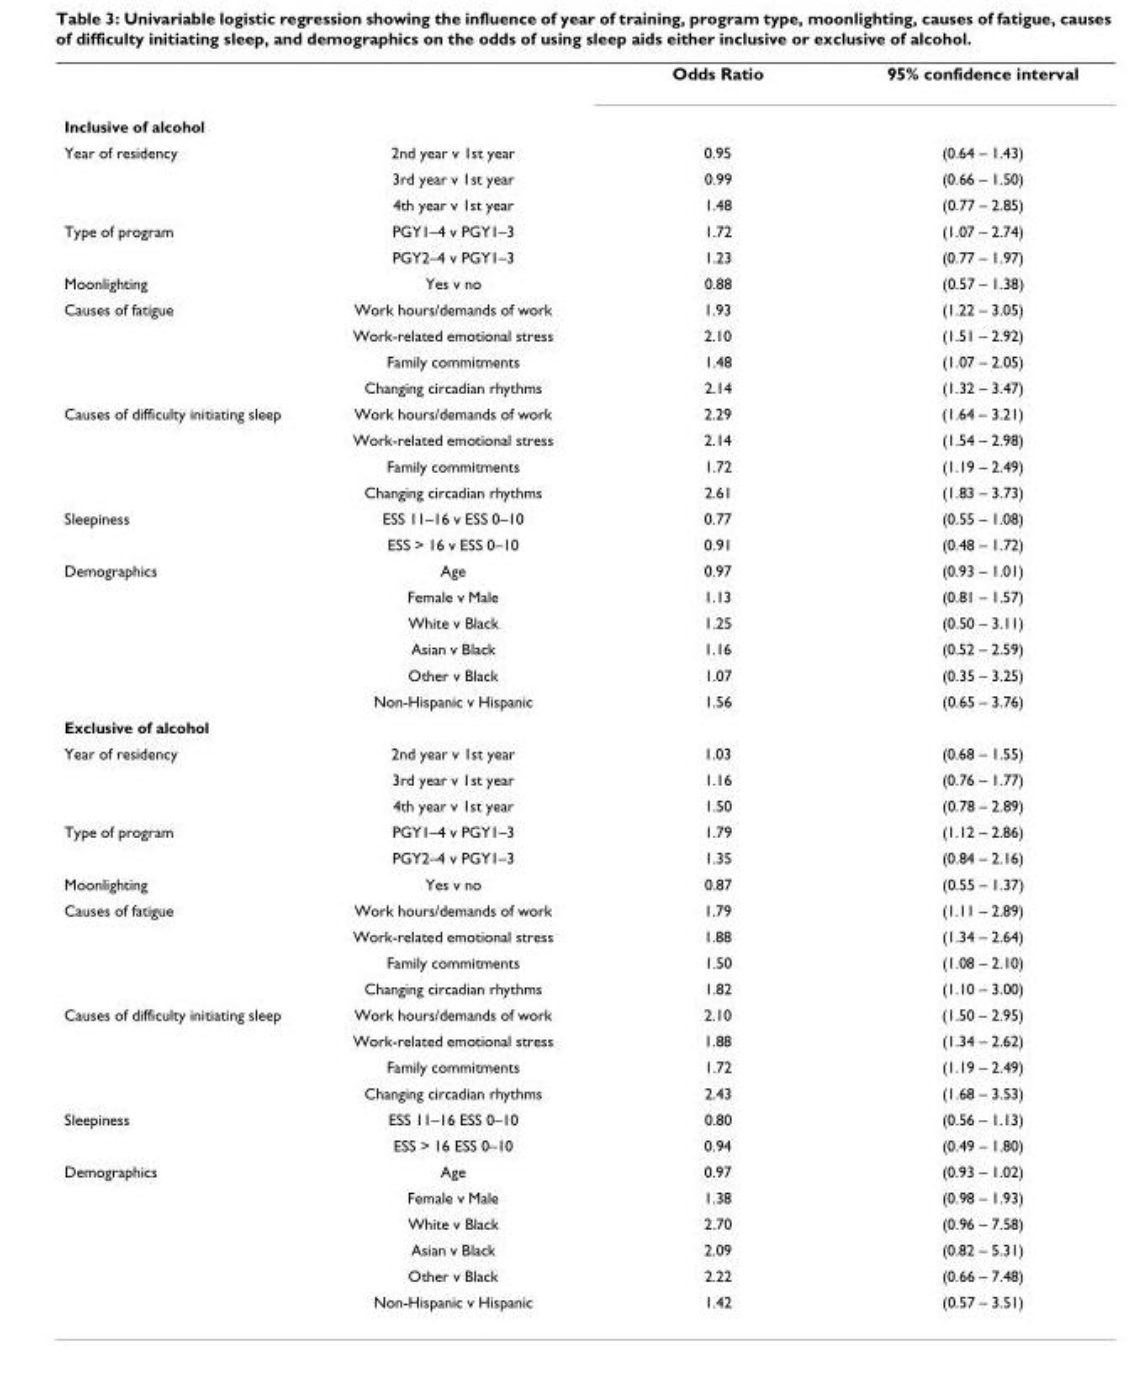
<table><thead><tr><td></td><td></td><td>Odds Ratio</td><td>95% confidence interval</td></tr></thead><tbody><tr><td colspan="4">Inclusive of alcohol</td></tr><tr><td rowspan="3">Year of residency</td><td>2nd year v 1st year</td><td>0.95</td><td>(0.64 – 1.43)</td></tr><tr><td>3rd year v 1st year</td><td>0.99</td><td>(0.66 – 1.50)</td></tr><tr><td>4th year v 1st year</td><td>1.48</td><td>(0.77 – 2.85)</td></tr><tr><td rowspan="2">Type of program</td><td>PGY1–4 v PGY1–3</td><td>1.72</td><td>(1.07 – 2.74)</td></tr><tr><td>PGY2–4 v PGY1–3</td><td>1.23</td><td>(0.77 – 1.97)</td></tr><tr><td>Moonlighting</td><td>Yes v no</td><td>0.88</td><td>(0.57 – 1.38)</td></tr><tr><td rowspan="4">Causes of fatigue</td><td>Work hours/demands of work</td><td>1.93</td><td>(1.22 – 3.05)</td></tr><tr><td>Work-related emotional stress</td><td>2.10</td><td>(1.51 – 2.92)</td></tr><tr><td>Family commitments</td><td>1.48</td><td>(1.07 – 2.05)</td></tr><tr><td>Changing circadian rhythms</td><td>2.14</td><td>(1.32 – 3.47)</td></tr><tr><td rowspan="4">Causes of difficulty initiating sleep</td><td>Work hours/demands of work</td><td>2.29</td><td>(1.64 – 3.21)</td></tr><tr><td>Work-related emotional stress</td><td>2.14</td><td>(1.54 – 2.98)</td></tr><tr><td>Family commitments</td><td>1.72</td><td>(1.19 – 2.49)</td></tr><tr><td>Changing circadian rhythms</td><td>2.61</td><td>(1.83 – 3.73)</td></tr><tr><td rowspan="2">Sleepiness</td><td>ESS 11–16 v ESS 0–10</td><td>0.77</td><td>(0.55 – 1.08)</td></tr><tr><td>ESS &gt; 16 v ESS 0–10</td><td>0.91</td><td>(0.48 – 1.72)</td></tr><tr><td rowspan="6">Demographics</td><td>Age</td><td>0.97</td><td>(0.93 – 1.01)</td></tr><tr><td>Female v Male</td><td>1.13</td><td>(0.81 – 1.57)</td></tr><tr><td>White v Black</td><td>1.25</td><td>(0.50 – 3.11)</td></tr><tr><td>Asian v Black</td><td>1.16</td><td>(0.52 – 2.59)</td></tr><tr><td>Other v Black</td><td>1.07</td><td>(0.35 – 3.25)</td></tr><tr><td>Non-Hispanic v Hispanic</td><td>1.56</td><td>(0.65 – 3.76)</td></tr><tr><td colspan="4">Exclusive of alcohol</td></tr><tr><td rowspan="3">Year of residency</td><td>2nd year v 1st year</td><td>1.03</td><td>(0.68 – 1.55)</td></tr><tr><td>3rd year v 1st year</td><td>1.16</td><td>(0.76 – 1.77)</td></tr><tr><td>4th year v 1st year</td><td>1.50</td><td>(0.78 – 2.89)</td></tr><tr><td rowspan="2">Type of program</td><td>PGY1–4 v PGY1–3</td><td>1.79</td><td>(1.12 – 2.86)</td></tr><tr><td>PGY2–4 v PGY1–3</td><td>1.35</td><td>(0.84 – 2.16)</td></tr><tr><td>Moonlighting</td><td>Yes v no</td><td>0.87</td><td>(0.55 – 1.37)</td></tr><tr><td rowspan="4">Causes of fatigue</td><td>Work hours/demands of work</td><td>1.79</td><td>(1.11 – 2.89)</td></tr><tr><td>Work-related emotional stress</td><td>1.88</td><td>(1.34 – 2.64)</td></tr><tr><td>Family commitments</td><td>1.50</td><td>(1.08 – 2.10)</td></tr><tr><td>Changing circadian rhythms</td><td>1.82</td><td>(1.10 – 3.00)</td></tr><tr><td rowspan="4">Causes of difficulty initiating sleep</td><td>Work hours/demands of work</td><td>2.10</td><td>(1.50 – 2.95)</td></tr><tr><td>Work-related emotional stress</td><td>1.88</td><td>(1.34 – 2.62)</td></tr><tr><td>Family commitments</td><td>1.72</td><td>(1.19 – 2.49)</td></tr><tr><td>Changing circadian rhythms</td><td>2.43</td><td>(1.68 – 3.53)</td></tr><tr><td rowspan="2">Sleepiness</td><td>ESS 11–16 ESS 0–10</td><td>0.80</td><td>(0.56 – 1.13)</td></tr><tr><td>ESS &gt; 16 ESS 0–10</td><td>0.94</td><td>(0.49 – 1.80)</td></tr><tr><td rowspan="6">Demographics</td><td>Age</td><td>0.97</td><td>(0.93 – 1.02)</td></tr><tr><td>Female v Male</td><td>1.38</td><td>(0.98 – 1.93)</td></tr><tr><td>White v Black</td><td>2.70</td><td>(0.96 – 7.58)</td></tr><tr><td>Asian v Black</td><td>2.09</td><td>(0.82 – 5.31)</td></tr><tr><td>Other v Black</td><td>2.22</td><td>(0.66 – 7.48)</td></tr><tr><td>Non-Hispanic v Hispanic</td><td>1.42</td><td>(0.57 – 3.51)</td></tr></tbody></table>